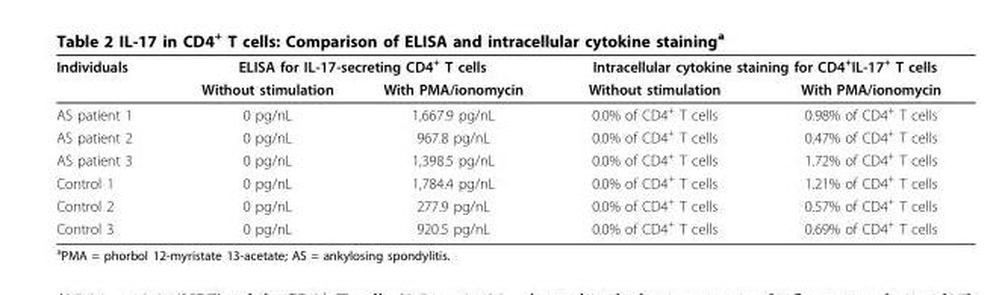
<table><thead><tr><td rowspan="2">Individuals</td><td colspan="2">ELISA for IL-17-secreting CD4<sup>+</sup> T cells</td><td colspan="2">Intracellular cytokine staining for CD4<sup>+</sup>IL-17<sup>+</sup> T cells</td></tr><tr><td>Without stimulation</td><td>With PMA/ionomycin</td><td>Without stimulation</td><td>With PMA/ionomycin</td></tr></thead><tbody><tr><td>AS patient 1</td><td>0 pg/nL</td><td>1,667.9 pg/nL</td><td>0.0% of CD4<sup>+</sup> T cells</td><td>0.98% of CD4<sup>+</sup> T cells</td></tr><tr><td>AS patient 2</td><td>0 pg/nL</td><td>967.8 pg/nL</td><td>0.0% of CD4<sup>+</sup> T cells</td><td>0.47% of CD4<sup>+</sup> T cells</td></tr><tr><td>AS patient 3</td><td>0 pg/nL</td><td>1,398.5 pg/nL</td><td>0.0% of CD4<sup>+</sup> T cells</td><td>1.72% of CD4<sup>+</sup> T cells</td></tr><tr><td>Control 1</td><td>0 pg/nL</td><td>1,784.4 pg/nL</td><td>0.0% of CD4<sup>+</sup> T cells</td><td>1.21% of CD4<sup>+</sup> T cells</td></tr><tr><td>Control 2</td><td>0 pg/nL</td><td>277.9 pg/nL</td><td>0.0% of CD4<sup>+</sup> T cells</td><td>0.57% of CD4<sup>+</sup> T cells</td></tr><tr><td>Control 3</td><td>0 pg/nL</td><td>920.5 pg/nL</td><td>0.0% of CD4<sup>+</sup> T cells</td><td>0.69% of CD4<sup>+</sup> T cells</td></tr></tbody></table>